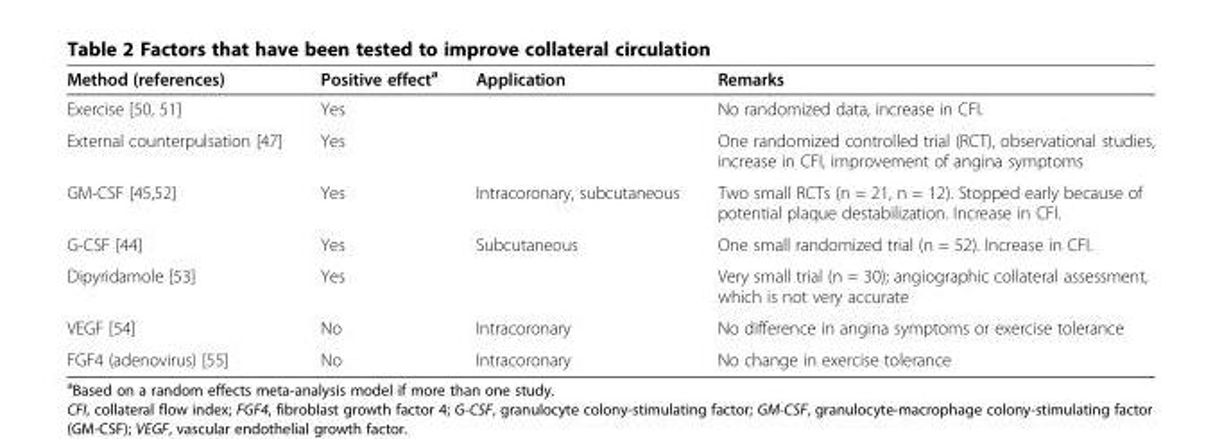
<table><thead><tr><td>Method (references)</td><td>Positive effect<sup>a</sup></td><td>Application</td><td>Remarks</td></tr></thead><tbody><tr><td>Exercise [50, 51]</td><td>Yes</td><td></td><td>No randomized data, increase in CFI.</td></tr><tr><td>External counterpulsation [47]</td><td>Yes</td><td></td><td>One randomized controlled trial (RCT), observational studies, increase in CFI, improvement of angina symptoms</td></tr><tr><td>GM-CSF [45,52]</td><td>Yes</td><td>Intracoronary, subcutaneous</td><td>Two small RCTs (n = 21, n = 12). Stopped early because of potential plaque destabilization. Increase in CFI.</td></tr><tr><td>G-CSF [44]</td><td>Yes</td><td>Subcutaneous</td><td>One small randomized trial (n = 52). Increase in CFI.</td></tr><tr><td>Dipyridamole [53]</td><td>Yes</td><td></td><td>Very small trial (n = 30); angiographic collateral assessment, which is not very accurate</td></tr><tr><td>VEGF [54]</td><td>No</td><td>Intracoronary</td><td>No difference in angina symptoms or exercise tolerance</td></tr><tr><td>FGF4 (adenovirus) [55]</td><td>No</td><td>Intracoronary</td><td>No change in exercise tolerance</td></tr></tbody></table>